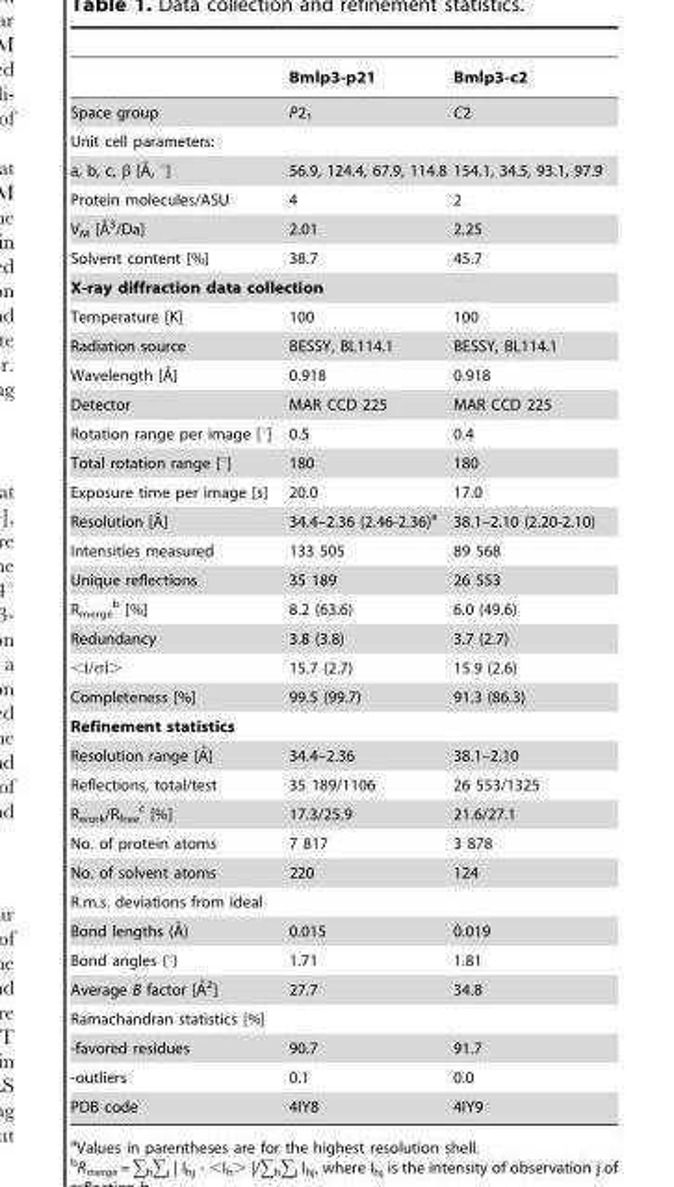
<table><thead><tr><td></td><td>Bmlp3-p21</td><td>Bmlp3-c2</td></tr></thead><tbody><tr><td>Space group</td><td>P2<sub>1</sub></td><td>C2</td></tr><tr><td colspan="3">Unit cell parameters:</td></tr><tr><td>a, b, c, b [A˚, u]</td><td>56.9, 124.4, 67.9, 114.8</td><td>154.1, 34.5, 93.1, 97.9</td></tr><tr><td>Protein molecules/ASU</td><td>4</td><td>2</td></tr><tr><td>VM [A˚3/Da]</td><td>2.01</td><td>2.25</td></tr><tr><td>Solvent content [%]</td><td>38.7</td><td>45.7</td></tr><tr><td colspan="3">X-ray diffraction data collection</td></tr><tr><td>Temperature [K]</td><td>100</td><td>100</td></tr><tr><td>Radiation source</td><td>BESSY, BL114.1</td><td>BESSY, BL114.1</td></tr><tr><td>Wavelength [A˚]</td><td>0.918</td><td>0.918</td></tr><tr><td>Detector</td><td>MAR CCD 225</td><td>MAR CCD 225</td></tr><tr><td>Rotation range per image [°]</td><td>0.5</td><td>0.4</td></tr><tr><td>Total rotation range [°]</td><td>180</td><td>180</td></tr><tr><td>Exposure time per image [s]</td><td>20.0</td><td>17.0</td></tr><tr><td>Resolution [A˚]</td><td>34.4–2.36 (2.46-2.36)<sup>a</sup></td><td>38.1–2.10 (2.20-2.10)</td></tr><tr><td>Intensities measured</td><td>133 505</td><td>89 568</td></tr><tr><td>Unique reflections</td><td>35 189</td><td>26 553</td></tr><tr><td>R<sub>merge</sub> b [%]</td><td>8.2 (63.6)</td><td>6.0 (49.6)</td></tr><tr><td>Redundancy</td><td>3.8 (3.8)</td><td>3.7 (2.7)</td></tr><tr><td>&lt;I/σI&gt;</td><td>15.7 (2.7)</td><td>15.9 (2.6)</td></tr><tr><td>Completeness [%]</td><td>99.5 (99.7)</td><td>91.3 (86.3)</td></tr><tr><td colspan="3">Refinement statistics</td></tr><tr><td>Resolution range [A˚]</td><td>34.4–2.36</td><td>38.1–2.10</td></tr><tr><td>Reflections, total/test</td><td>35 189/1106</td><td>26 553/1325</td></tr><tr><td>R<sub>work</sub>/R<sub>free</sub> c [%]</td><td>17.3/25.9</td><td>21.6/27.1</td></tr><tr><td>No. of protein atoms</td><td>7 817</td><td>3 878</td></tr><tr><td>No. of solvent atoms</td><td>220</td><td>124</td></tr><tr><td colspan="3">R.m.s. deviations from ideal</td></tr><tr><td>Bond lengths (A˚)</td><td>0.015</td><td>0.019</td></tr><tr><td>Bond angles (°)</td><td>1.71</td><td>1.81</td></tr><tr><td>Average B factor [A˚2]</td><td>27.7</td><td>34.8</td></tr><tr><td colspan="3">Ramachandran statistics [%]</td></tr><tr><td>-favored residues</td><td>90.7</td><td>91.7</td></tr><tr><td>-outliers</td><td>0.1</td><td>0.0</td></tr><tr><td>PDB code</td><td>4IY8</td><td>4IY9</td></tr></tbody></table>